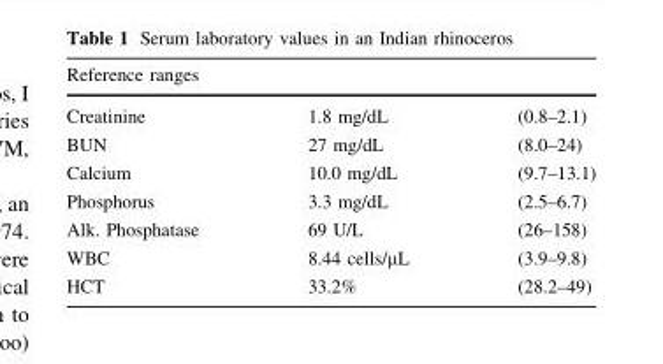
<table><thead><tr><td colspan="3">Reference ranges</td></tr><tr><td>Creatinine</td><td>1.8 mg/dL</td><td>(0.8–2.1)</td></tr></thead><tbody><tr><td>BUN</td><td>27 mg/dL</td><td>(8.0–24)</td></tr><tr><td>Calcium</td><td>10.0 mg/dL</td><td>(9.7–13.1)</td></tr><tr><td>Phosphorus</td><td>3.3 mg/dL</td><td>(2.5–6.7)</td></tr><tr><td>Alk. Phosphatase</td><td>69 U/L</td><td>(26–158)</td></tr><tr><td>WBC</td><td>8.44 cells/μL</td><td>(3.9–9.8)</td></tr><tr><td>HCT</td><td>33.2%</td><td>(28.2–49)</td></tr></tbody></table>